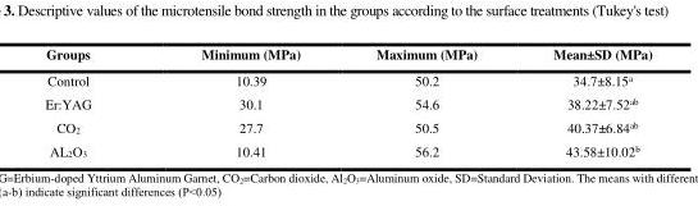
<table><thead><tr><td>Groups</td><td>Minimum (MPa)</td><td>Maximum (MPa)</td><td>Mean±SD (MPa)</td></tr></thead><tbody><tr><td>Control</td><td>10.39</td><td>50.2</td><td>34.7±8.15<sup>a</sup></td></tr><tr><td>Er:YAG</td><td>30.1</td><td>54.6</td><td>38.22±7.52<sup>ab</sup></td></tr><tr><td>CO<sub>2</sub></td><td>27.7</td><td>50.5</td><td>40.37±6.84<sup>ab</sup></td></tr><tr><td>AL<sub>2</sub>O<sub>3</sub></td><td>10.41</td><td>56.2</td><td>43.58±10.02<sup>b</sup></td></tr></tbody></table>